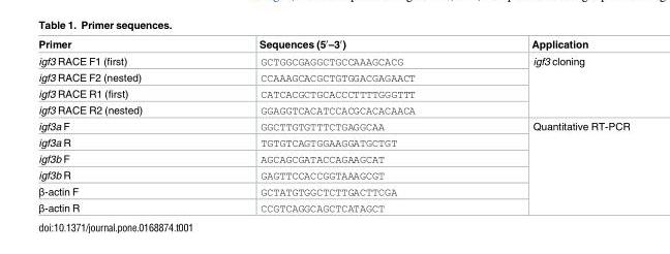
<table><thead><tr><td>Primer</td><td>Sequences (5′–3′)</td><td>Application</td></tr></thead><tbody><tr><td>igf3 RACE F1 (first)</td><td>GCTGGCGAGGCTGCCAAAGCACG</td><td rowspan="4">igf3 cloning</td></tr><tr><td>igf3 RACE F2 (nested)</td><td>CCAAAGCACGCTGTGGACGAGAACT</td></tr><tr><td>igf3 RACE R1 (first)</td><td>CATCACGCTGCACCCTTTTGGGTTT</td></tr><tr><td>igf3 RACE R2 (nested)</td><td>GGAGGTCACATCCACGCACACAACA</td></tr><tr><td>igf3a F</td><td>GGCTTGTGTTTCTGAGGCAA</td><td rowspan="6">Quantitative RT-PCR</td></tr><tr><td>igf3a R</td><td>TGTGTCAGTGGAAGGATGCTGT</td></tr><tr><td>igf3b F</td><td>AGCAGCGATACCAGAAGCAT</td></tr><tr><td>igf3b R</td><td>GAGTTCCACCGGTAAAGCGT</td></tr><tr><td>β-actin F</td><td>GCTATGTGGCTCTTGACTTCGA</td></tr><tr><td>β-actin R</td><td>CCGTCAGGCAGCTCATAGCT</td></tr></tbody></table>